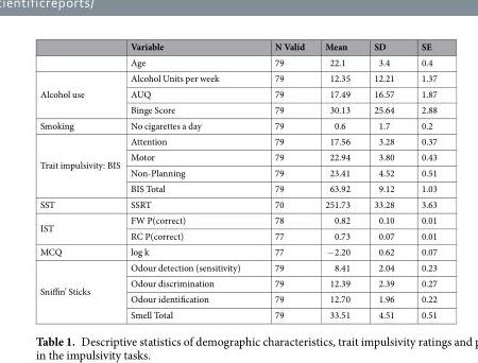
<table><thead><tr><td></td><td>Variable</td><td>N Valid</td><td>Mean</td><td>SD</td><td>SE</td></tr></thead><tbody><tr><td></td><td>Age</td><td>79</td><td>22.1</td><td>3.4</td><td>0.4</td></tr><tr><td rowspan="3">Alcohol use</td><td>Alcohol Units per week</td><td>79</td><td>12.35</td><td>12.21</td><td>1.37</td></tr><tr><td>AUQ</td><td>79</td><td>17.49</td><td>16.57</td><td>1.87</td></tr><tr><td>Binge Score</td><td>79</td><td>30.13</td><td>25.64</td><td>2.88</td></tr><tr><td>Smoking</td><td>No cigarettes a day</td><td>79</td><td>0.6</td><td>1.7</td><td>0.2</td></tr><tr><td rowspan="4">Trait impulsivity: BIS</td><td>Attention</td><td>79</td><td>17.56</td><td>3.28</td><td>0.37</td></tr><tr><td>Motor</td><td>79</td><td>22.94</td><td>3.80</td><td>0.43</td></tr><tr><td>Non-Planning</td><td>79</td><td>23.41</td><td>4.52</td><td>0.51</td></tr><tr><td>BIS Total</td><td>79</td><td>63.92</td><td>9.12</td><td>1.03</td></tr><tr><td>SST</td><td>SSRT</td><td>70</td><td>251.73</td><td>33.28</td><td>3.63</td></tr><tr><td rowspan="2">IST</td><td>FW P(correct)</td><td>78</td><td>0.82</td><td>0.10</td><td>0.01</td></tr><tr><td>RC P(correct)</td><td>77</td><td>0.73</td><td>0.07</td><td>0.01</td></tr><tr><td>MCQ</td><td>log k</td><td>77</td><td>−2.20</td><td>0.62</td><td>0.07</td></tr><tr><td rowspan="4">Sniffin’ Sticks</td><td>Odour detection (sensitivity)</td><td>79</td><td>8.41</td><td>2.04</td><td>0.23</td></tr><tr><td>Odour discrimination</td><td>79</td><td>12.39</td><td>2.39</td><td>0.27</td></tr><tr><td>Odour identification</td><td>79</td><td>12.70</td><td>1.96</td><td>0.22</td></tr><tr><td>Smell Total</td><td>79</td><td>33.51</td><td>4.51</td><td>0.51</td></tr></tbody></table>